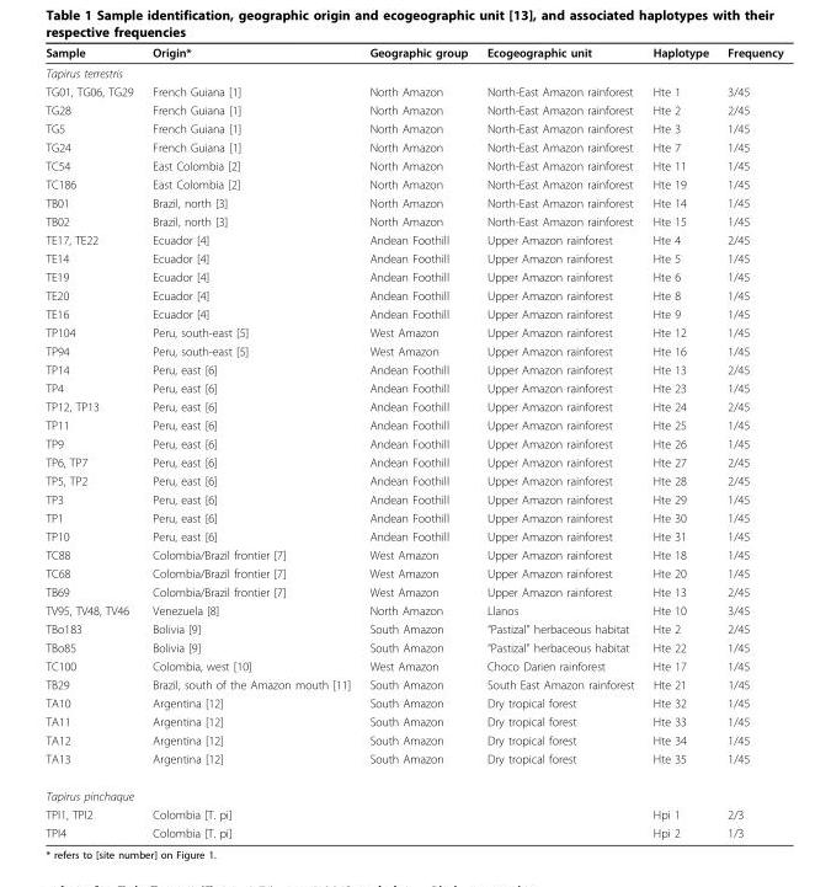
<table><thead><tr><td>Sample</td><td>Origin*</td><td>Geographic group</td><td>Ecogeographic unit</td><td>Haplotype</td><td>Frequency</td></tr></thead><tbody><tr><td colspan="6">Tapirus terrestris</td></tr><tr><td>TG01, TG06, TG29</td><td>French Guiana [1]</td><td>North Amazon</td><td>North-East Amazon rainforest</td><td>Hte 1</td><td>3/45</td></tr><tr><td>TG28</td><td>French Guiana [1]</td><td>North Amazon</td><td>North-East Amazon rainforest</td><td>Hte 2</td><td>2/45</td></tr><tr><td>TG5</td><td>French Guiana [1]</td><td>North Amazon</td><td>North-East Amazon rainforest</td><td>Hte 3</td><td>1/45</td></tr><tr><td>TG24</td><td>French Guiana [1]</td><td>North Amazon</td><td>North-East Amazon rainforest</td><td>Hte 7</td><td>1/45</td></tr><tr><td>TC54</td><td>East Colombia [2]</td><td>North Amazon</td><td>North-East Amazon rainforest</td><td>Hte 11</td><td>1/45</td></tr><tr><td>TC186</td><td>East Colombia [2]</td><td>North Amazon</td><td>North-East Amazon rainforest</td><td>Hte 19</td><td>1/45</td></tr><tr><td>TB01</td><td>Brazil, north [3]</td><td>North Amazon</td><td>North-East Amazon rainforest</td><td>Hte 14</td><td>1/45</td></tr><tr><td>TB02</td><td>Brazil, north [3]</td><td>North Amazon</td><td>North-East Amazon rainforest</td><td>Hte 15</td><td>1/45</td></tr><tr><td>TE17, TE22</td><td>Ecuador [4]</td><td>Andean Foothill</td><td>Upper Amazon rainforest</td><td>Hte 4</td><td>2/45</td></tr><tr><td>TE14</td><td>Ecuador [4]</td><td>Andean Foothill</td><td>Upper Amazon rainforest</td><td>Hte 5</td><td>1/45</td></tr><tr><td>TE19</td><td>Ecuador [4]</td><td>Andean Foothill</td><td>Upper Amazon rainforest</td><td>Hte 6</td><td>1/45</td></tr><tr><td>TE20</td><td>Ecuador [4]</td><td>Andean Foothill</td><td>Upper Amazon rainforest</td><td>Hte 8</td><td>1/45</td></tr><tr><td>TE16</td><td>Ecuador [4]</td><td>Andean Foothill</td><td>Upper Amazon rainforest</td><td>Hte 9</td><td>1/45</td></tr><tr><td>TP104</td><td>Peru, south-east [5]</td><td>West Amazon</td><td>Upper Amazon rainforest</td><td>Hte 12</td><td>1/45</td></tr><tr><td>TP94</td><td>Peru, south-east [5]</td><td>West Amazon</td><td>Upper Amazon rainforest</td><td>Hte 16</td><td>1/45</td></tr><tr><td>TP14</td><td>Peru, east [6]</td><td>Andean Foothill</td><td>Upper Amazon rainforest</td><td>Hte 13</td><td>2/45</td></tr><tr><td>TP4</td><td>Peru, east [6]</td><td>Andean Foothill</td><td>Upper Amazon rainforest</td><td>Hte 23</td><td>1/45</td></tr><tr><td>TP12, TP13</td><td>Peru, east [6]</td><td>Andean Foothill</td><td>Upper Amazon rainforest</td><td>Hte 24</td><td>2/45</td></tr><tr><td>TP11</td><td>Peru, east [6]</td><td>Andean Foothill</td><td>Upper Amazon rainforest</td><td>Hte 25</td><td>1/45</td></tr><tr><td>TP9</td><td>Peru, east [6]</td><td>Andean Foothill</td><td>Upper Amazon rainforest</td><td>Hte 26</td><td>1/45</td></tr><tr><td>TP6, TP7</td><td>Peru, east [6]</td><td>Andean Foothill</td><td>Upper Amazon rainforest</td><td>Hte 27</td><td>2/45</td></tr><tr><td>TP5, TP2</td><td>Peru, east [6]</td><td>Andean Foothill</td><td>Upper Amazon rainforest</td><td>Hte 28</td><td>2/45</td></tr><tr><td>TP3</td><td>Peru, east [6]</td><td>Andean Foothill</td><td>Upper Amazon rainforest</td><td>Hte 29</td><td>1/45</td></tr><tr><td>TP1</td><td>Peru, east [6]</td><td>Andean Foothill</td><td>Upper Amazon rainforest</td><td>Hte 30</td><td>1/45</td></tr><tr><td>TP10</td><td>Peru, east [6]</td><td>Andean Foothill</td><td>Upper Amazon rainforest</td><td>Hte 31</td><td>1/45</td></tr><tr><td>TC88</td><td>Colombia/Brazil frontier [7]</td><td>West Amazon</td><td>Upper Amazon rainforest</td><td>Hte 18</td><td>1/45</td></tr><tr><td>TC68</td><td>Colombia/Brazil frontier [7]</td><td>West Amazon</td><td>Upper Amazon rainforest</td><td>Hte 20</td><td>1/45</td></tr><tr><td>TB69</td><td>Colombia/Brazil frontier [7]</td><td>West Amazon</td><td>Upper Amazon rainforest</td><td>Hte 13</td><td>2/45</td></tr><tr><td>TV95, TV48, TV46</td><td>Venezuela [8]</td><td>North Amazon</td><td>Llanos</td><td>Hte 10</td><td>3/45</td></tr><tr><td>TBo183</td><td>Bolivia [9]</td><td>South Amazon</td><td>“Pastizal” herbaceous habitat</td><td>Hte 2</td><td>2/45</td></tr><tr><td>TBo85</td><td>Bolivia [9]</td><td>South Amazon</td><td>“Pastizal” herbaceous habitat</td><td>Hte 22</td><td>1/45</td></tr><tr><td>TC100</td><td>Colombia, west [10]</td><td>West Amazon</td><td>Choco Darien rainforest</td><td>Hte 17</td><td>1/45</td></tr><tr><td>TB29</td><td>Brazil, south of the Amazon mouth [11]</td><td>South Amazon</td><td>South East Amazon rainforest</td><td>Hte 21</td><td>1/45</td></tr><tr><td>TA10</td><td>Argentina [12]</td><td>South Amazon</td><td>Dry tropical forest</td><td>Hte 32</td><td>1/45</td></tr><tr><td>TA11</td><td>Argentina [12]</td><td>South Amazon</td><td>Dry tropical forest</td><td>Hte 33</td><td>1/45</td></tr><tr><td>TA12</td><td>Argentina [12]</td><td>South Amazon</td><td>Dry tropical forest</td><td>Hte 34</td><td>1/45</td></tr><tr><td>TA13</td><td>Argentina [12]</td><td>South Amazon</td><td>Dry tropical forest</td><td>Hte 35</td><td>1/45</td></tr><tr><td colspan="6">Tapirus pinchaque</td></tr><tr><td>TPI1, TPI2</td><td>Colombia [T. pi]</td><td></td><td></td><td>Hpi 1</td><td>2/3</td></tr><tr><td>TPI4</td><td>Colombia [T. pi]</td><td></td><td></td><td>Hpi 2</td><td>1/3</td></tr></tbody></table>